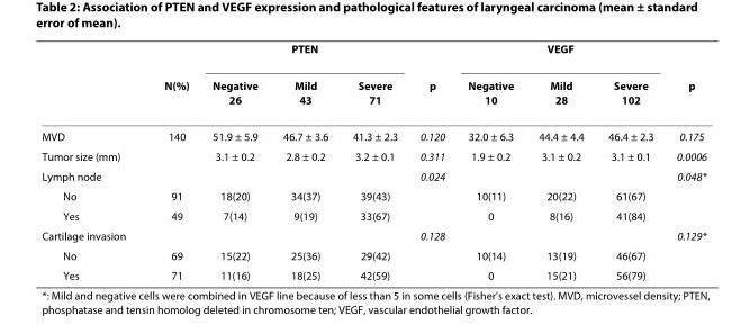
<table><thead><tr><td rowspan="2"></td><td rowspan="2">N(%)</td><td colspan="3">PTEN</td><td rowspan="2">p</td><td colspan="3">VEGF</td><td rowspan="2">p</td></tr><tr><td>Negative 26</td><td>Mild 43</td><td>Severe 71</td><td>Negative 10</td><td>Mild 28</td><td>Severe 102</td></tr></thead><tbody><tr><td>MVD</td><td>140</td><td>51.9 ± 5.9</td><td>46.7 ± 3.6</td><td>41.3 ± 2.3</td><td>0.120</td><td>32.0 ± 6.3</td><td>44.4 ± 4.4</td><td>46.4 ± 2.3</td><td>0.175</td></tr><tr><td>Tumor size (mm)</td><td></td><td>3.1 ± 0.2</td><td>2.8 ± 0.2</td><td>3.2 ± 0.1</td><td>0.311</td><td>1.9 ± 0.2</td><td>3.1 ± 0.2</td><td>3.1 ± 0.1</td><td>0.0006</td></tr><tr><td>Lymph node</td><td></td><td></td><td></td><td></td><td>0.024</td><td></td><td></td><td></td><td>0.048*</td></tr><tr><td>No</td><td>91</td><td>18(20)</td><td>34(37)</td><td>39(43)</td><td></td><td>10(11)</td><td>20(22)</td><td>61(67)</td><td></td></tr><tr><td>Yes</td><td>49</td><td>7(14)</td><td>9(19)</td><td>33(67)</td><td></td><td>0</td><td>8(16)</td><td>41(84)</td><td></td></tr><tr><td>Cartilage invasion</td><td></td><td></td><td></td><td></td><td>0.128</td><td></td><td></td><td></td><td>0.129*</td></tr><tr><td>No</td><td>69</td><td>15(22)</td><td>25(36)</td><td>29(42)</td><td></td><td>10(14)</td><td>13(19)</td><td>46(67)</td><td></td></tr><tr><td>Yes</td><td>71</td><td>11(16)</td><td>18(25)</td><td>42(59)</td><td></td><td>0</td><td>15(21)</td><td>56(79)</td><td></td></tr></tbody></table>